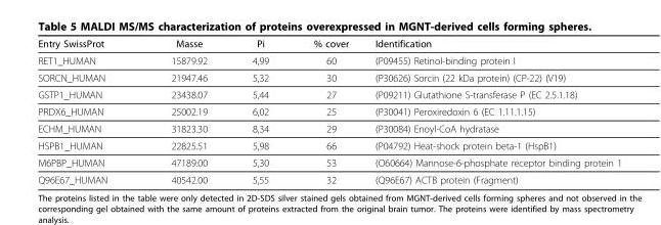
<table><thead><tr><td>Entry SwissProt</td><td>Masse</td><td>Pi</td><td>% cover</td><td>Identification</td></tr></thead><tbody><tr><td>RET1_HUMAN</td><td>15879.92</td><td>4,99</td><td>60</td><td>(P09455) Retinol-binding protein I</td></tr><tr><td>SORCN_HUMAN</td><td>21947.46</td><td>5,32</td><td>30</td><td>(P30626) Sorcin (22 kDa protein) (CP-22) (V19)</td></tr><tr><td>GSTP1_HUMAN</td><td>23438.07</td><td>5,44</td><td>27</td><td>(P09211) Glutathione S-transferase P (EC 2.5.1.18)</td></tr><tr><td>PRDX6_HUMAN</td><td>25002.19</td><td>6,02</td><td>25</td><td>(P30041) Peroxiredoxin 6 (EC 1.11.1.15)</td></tr><tr><td>ECHM_HUMAN</td><td>31823.30</td><td>8,34</td><td>29</td><td>(P30084) Enoyl-CoA hydratase</td></tr><tr><td>HSPB1_HUMAN</td><td>22825.51</td><td>5,98</td><td>66</td><td>(P04792) Heat-shock protein beta-1 (HspB1)</td></tr><tr><td>M6PBP_HUMAN</td><td>47189.00</td><td>5,30</td><td>53</td><td>(O60664) Mannose-6-phosphate receptor binding protein 1</td></tr><tr><td>Q96E67_HUMAN</td><td>40542.00</td><td>5,55</td><td>32</td><td>(Q96E67) ACTB protein (Fragment)</td></tr></tbody></table>